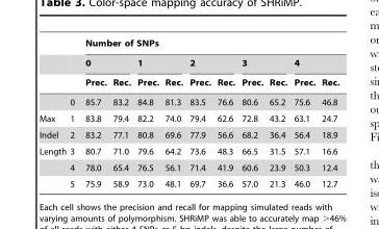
<table><thead><tr><td rowspan="3"></td><td rowspan="3"></td><td colspan="10">Number of SNPs</td></tr><tr><td colspan="2">0</td><td colspan="2">1</td><td colspan="2">2</td><td colspan="2">3</td><td colspan="2">4</td></tr><tr><td>Prec.</td><td>Rec.</td><td>Prec.</td><td>Rec.</td><td>Prec.</td><td>Rec.</td><td>Prec.</td><td>Rec.</td><td>Prec.</td><td>Rec.</td></tr></thead><tbody><tr><td></td><td>0</td><td>85.7</td><td>83.2</td><td>84.8</td><td>81.3</td><td>83.5</td><td>76.6</td><td>80.6</td><td>65.2</td><td>75.6</td><td>46.8</td></tr><tr><td>Max</td><td>1</td><td>83.8</td><td>79.4</td><td>82.2</td><td>74.0</td><td>79.4</td><td>62.6</td><td>72.8</td><td>43.2</td><td>63.1</td><td>24.7</td></tr><tr><td>Indel</td><td>2</td><td>83.2</td><td>77.1</td><td>80.8</td><td>69.6</td><td>77.9</td><td>56.6</td><td>68.2</td><td>36.4</td><td>56.4</td><td>18.9</td></tr><tr><td rowspan="3">Length</td><td>3</td><td>80.7</td><td>71.0</td><td>79.6</td><td>64.2</td><td>73.6</td><td>48.3</td><td>66.5</td><td>31.5</td><td>57.1</td><td>16.6</td></tr><tr><td>4</td><td>78.0</td><td>65.4</td><td>76.5</td><td>56.1</td><td>71.4</td><td>41.9</td><td>60.6</td><td>23.9</td><td>50.3</td><td>12.4</td></tr><tr><td>5</td><td>75.9</td><td>58.9</td><td>73.0</td><td>48.1</td><td>69.7</td><td>36.6</td><td>57.0</td><td>21.3</td><td>46.0</td><td>12.7</td></tr></tbody></table>